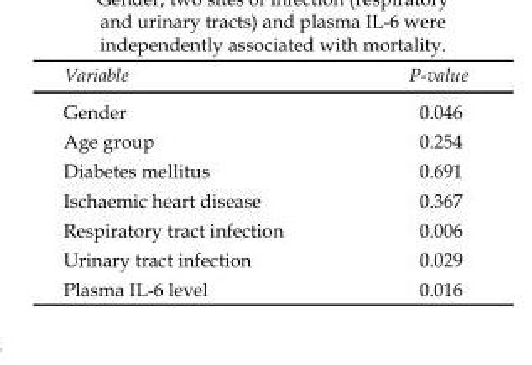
<table><thead><tr><td>Variable</td><td>P-value</td></tr></thead><tbody><tr><td>Gender</td><td>0.046</td></tr><tr><td>Age group</td><td>0.254</td></tr><tr><td>Diabetes mellitus</td><td>0.691</td></tr><tr><td>Ischaemic heart disease</td><td>0.367</td></tr><tr><td>Respiratory tract infection</td><td>0.006</td></tr><tr><td>Urinary tract infection</td><td>0.029</td></tr><tr><td>Plasma IL-6 level</td><td>0.016</td></tr></tbody></table>